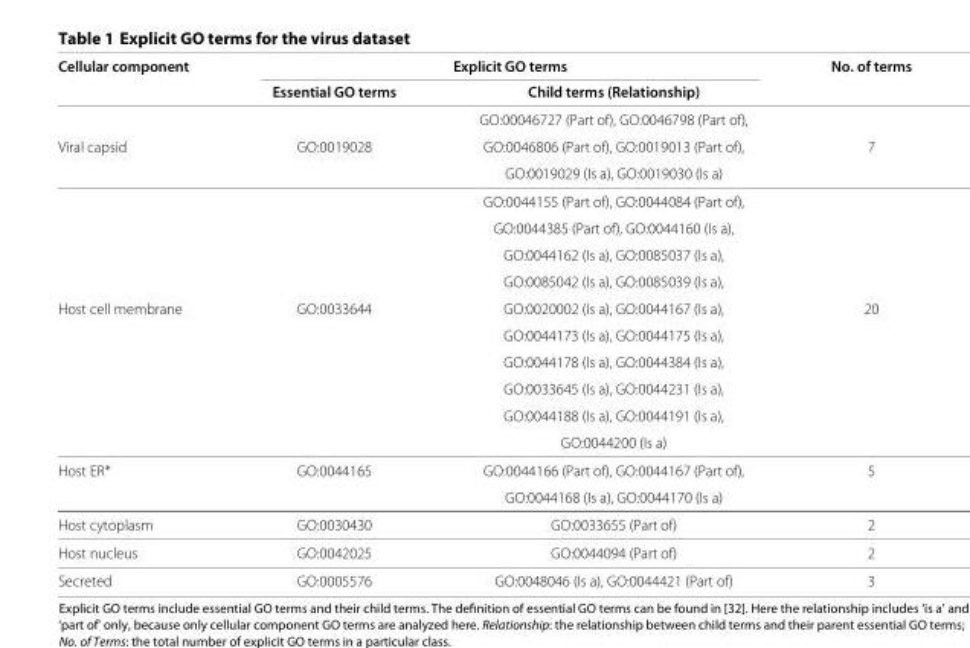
<table><thead><tr><td rowspan="2">Cellular component</td><td colspan="2">Explicit GO terms</td><td rowspan="2">No. of terms</td></tr><tr><td>Essential GO terms</td><td>Child terms (Relationship)</td></tr></thead><tbody><tr><td></td><td></td><td>GO:00046727 (Part of), GO:0046798 (Part of),</td><td></td></tr><tr><td rowspan="6">Viral capsid</td><td>GO:0019028</td><td>GO:0046806 (Part of), GO:0019013 (Part of),</td><td>7</td></tr><tr><td></td><td>GO:0019029 (Is a), GO:0019030 (Is a)</td><td></td></tr><tr><td></td><td>GO:0044155 (Part of), GO:0044084 (Part of),</td><td></td></tr><tr><td></td><td>GO:0044385 (Part of), GO:0044160 (Is a),</td><td></td></tr><tr><td></td><td>GO:0044162 (Is a), GO:0085037 (Is a),</td><td></td></tr><tr><td></td><td>GO:0085042 (Is a), GO:0085039 (Is a),</td><td></td></tr><tr><td rowspan="6">Host cell membrane</td><td>GO:0033644</td><td>GO:0020002 (Is a), GO:0044167 (Is a),</td><td>20</td></tr><tr><td></td><td>GO:0044173 (Is a), GO:0044175 (Is a),</td><td></td></tr><tr><td></td><td>GO:0044178 (Is a), GO:0044384 (Is a),</td><td></td></tr><tr><td></td><td>GO:0033645 (Is a), GO:0044231 (Is a),</td><td></td></tr><tr><td></td><td>GO:0044188 (Is a), GO:0044191 (Is a),</td><td></td></tr><tr><td></td><td>GO:0044200 (Is a)</td><td></td></tr><tr><td rowspan="2">Host ER∗</td><td>GO:0044165</td><td>GO:0044166 (Part of), GO:0044167 (Part of),</td><td>5</td></tr><tr><td></td><td>GO:0044168 (Is a), GO:0044170 (Is a)</td><td></td></tr><tr><td>Host cytoplasm</td><td>GO:0030430</td><td>GO:0033655 (Part of)</td><td>2</td></tr><tr><td>Host nucleus</td><td>GO:0042025</td><td>GO:0044094 (Part of)</td><td>2</td></tr><tr><td>Secreted</td><td>GO:0005576</td><td>GO:0048046 (Is a), GO:0044421 (Part of)</td><td>3</td></tr></tbody></table>